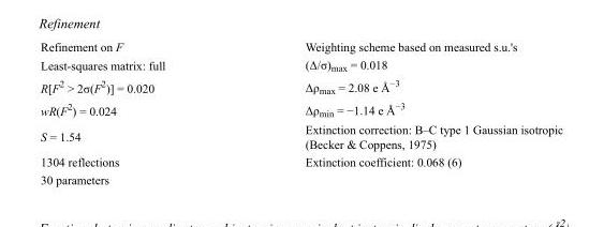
<table><tbody><tr><td>Refinement on F</td><td>Weighting scheme based on measured s.u.&#x27;s</td></tr><tr><td>Least-squares matrix: full</td><td>(Δ/σ)<sub>max</sub> = 0.018</td></tr><tr><td>R[F<sup>2</sup> &gt; 2σ(F<sup>2</sup>)] = 0.020</td><td>Δρ<sub>max</sub> = 2.08 e Å<sup>−3</sup></td></tr><tr><td>wR(F<sup>2</sup>) = 0.024</td><td>Δρ<sub>min</sub> = −1.14 e Å<sup>−3</sup></td></tr><tr><td>S = 1.54</td><td>Extinction correction: B–C type 1 Gaussian isotropic (Becker &amp; Coppens, 1975)</td></tr><tr><td>1304 reflections</td><td>Extinction coefficient: 0.068 (6)</td></tr><tr><td>30 parameters</td><td></td></tr></tbody></table>